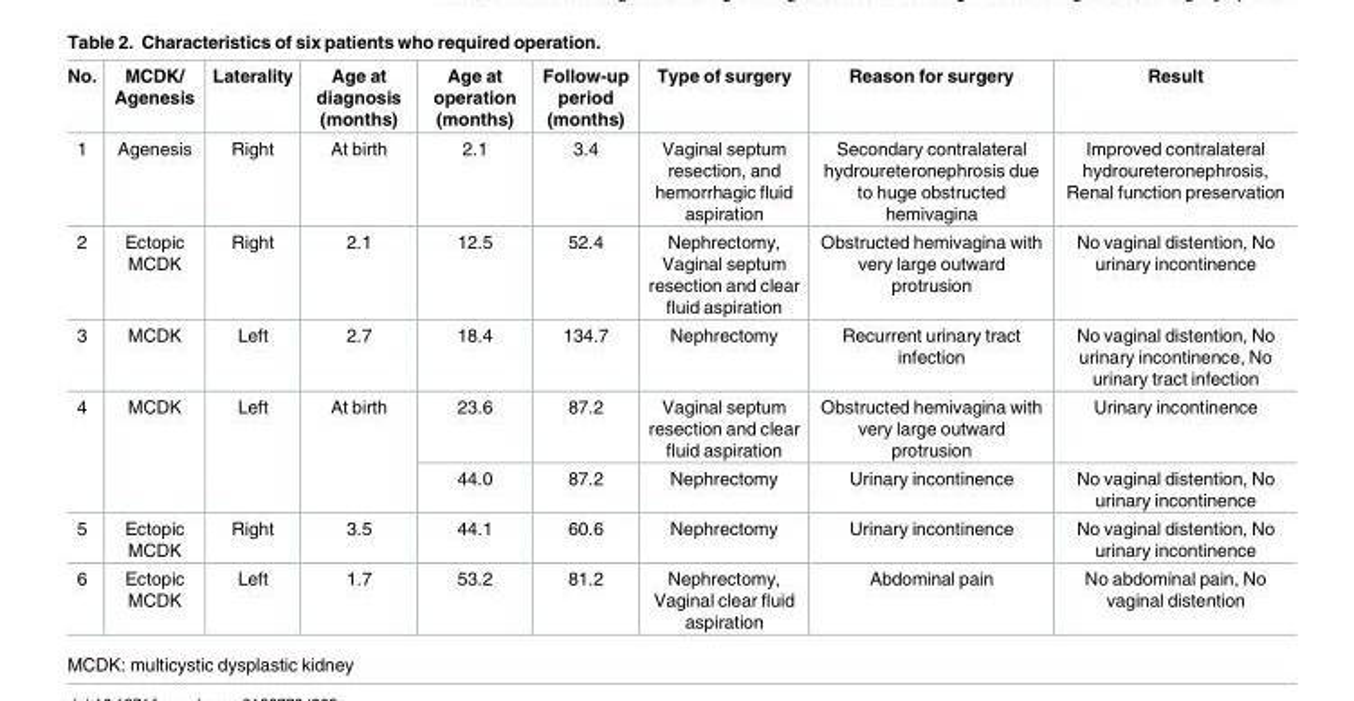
<table><thead><tr><td>No.</td><td>MCDK/ Agenesis</td><td>Laterality</td><td>Age at diagnosis (months)</td><td>Age at operation (months)</td><td>Follow-up period (months)</td><td>Type of surgery</td><td>Reason for surgery</td><td>Result</td></tr></thead><tbody><tr><td>1</td><td>Agenesis</td><td>Right</td><td>At birth</td><td>2.1</td><td>3.4</td><td>Vaginal septum resection, and hemorrhagic fluid aspiration</td><td>Secondary contralateral hydroureteronephrosis due to huge obstructed hemivagina</td><td>Improved contralateral hydroureteronephrosis, Renal function preservation</td></tr><tr><td>2</td><td>Ectopic MCDK</td><td>Right</td><td>2.1</td><td>12.5</td><td>52.4</td><td>Nephrectomy, Vaginal septum resection and clear fluid aspiration</td><td>Obstructed hemivagina with very large outward protrusion</td><td>No vaginal distention, No urinary incontinence</td></tr><tr><td>3</td><td>MCDK</td><td>Left</td><td>2.7</td><td>18.4</td><td>134.7</td><td>Nephrectomy</td><td>Recurrent urinary tract infection</td><td>No vaginal distention, No urinary incontinence, No urinary tract infection</td></tr><tr><td rowspan="2">4</td><td rowspan="2">MCDK</td><td rowspan="2">Left</td><td rowspan="2">At birth</td><td>23.6</td><td>87.2</td><td>Vaginal septum resection and clear fluid aspiration</td><td>Obstructed hemivagina with very large outward protrusion</td><td>Urinary incontinence</td></tr><tr><td>44.0</td><td>87.2</td><td>Nephrectomy</td><td>Urinary incontinence</td><td>No vaginal distention, No urinary incontinence</td></tr><tr><td>5</td><td>Ectopic MCDK</td><td>Right</td><td>3.5</td><td>44.1</td><td>60.6</td><td>Nephrectomy</td><td>Urinary incontinence</td><td>No vaginal distention, No urinary incontinence</td></tr><tr><td>6</td><td>Ectopic MCDK</td><td>Left</td><td>1.7</td><td>53.2</td><td>81.2</td><td>Nephrectomy, Vaginal clear fluid aspiration</td><td>Abdominal pain</td><td>No abdominal pain, No vaginal distention</td></tr></tbody></table>